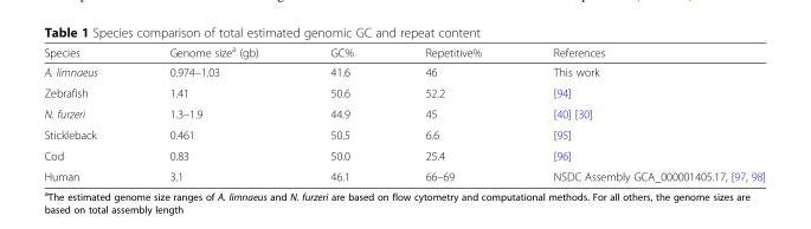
<table><thead><tr><td>Species</td><td>Genome size<sup>a</sup> (gb)</td><td>GC%</td><td>Repetitive%</td><td>References</td></tr></thead><tbody><tr><td>A. limnaeus</td><td>0.974–1.03</td><td>41.6</td><td>46</td><td>This work</td></tr><tr><td>Zebrafish</td><td>1.41</td><td>50.6</td><td>52.2</td><td>[94]</td></tr><tr><td>N. furzeri</td><td>1.3–1.9</td><td>44.9</td><td>45</td><td>[40] [30]</td></tr><tr><td>Stickleback</td><td>0.461</td><td>50.5</td><td>6.6</td><td>[95]</td></tr><tr><td>Cod</td><td>0.83</td><td>50.0</td><td>25.4</td><td>[96]</td></tr><tr><td>Human</td><td>3.1</td><td>46.1</td><td>66–69</td><td>NSDC Assembly GCA_000001405.17, [97, 98]</td></tr></tbody></table>